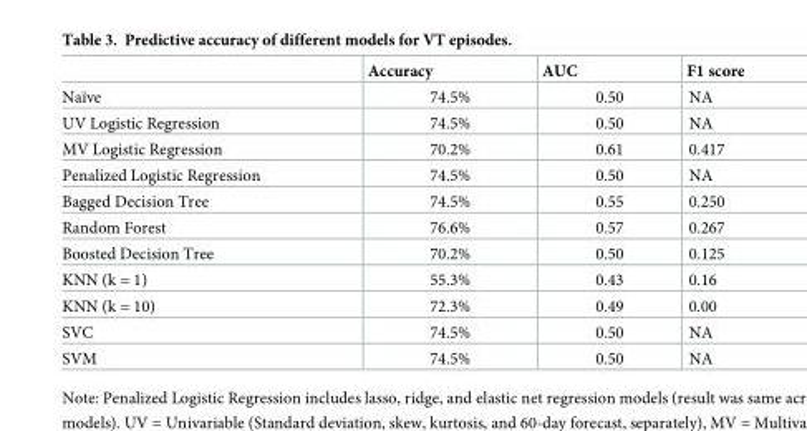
<table><thead><tr><td></td><td>Accuracy</td><td>AUC</td><td>F1 score</td></tr></thead><tbody><tr><td>Naïve</td><td>74.5%</td><td>0.50</td><td>NA</td></tr><tr><td>UV Logistic Regression</td><td>74.5%</td><td>0.50</td><td>NA</td></tr><tr><td>MV Logistic Regression</td><td>70.2%</td><td>0.61</td><td>0.417</td></tr><tr><td>Penalized Logistic Regression</td><td>74.5%</td><td>0.50</td><td>NA</td></tr><tr><td>Bagged Decision Tree</td><td>74.5%</td><td>0.55</td><td>0.250</td></tr><tr><td>Random Forest</td><td>76.6%</td><td>0.57</td><td>0.267</td></tr><tr><td>Boosted Decision Tree</td><td>70.2%</td><td>0.50</td><td>0.125</td></tr><tr><td>KNN (k = 1)</td><td>55.3%</td><td>0.43</td><td>0.16</td></tr><tr><td>KNN (k = 10)</td><td>72.3%</td><td>0.49</td><td>0.00</td></tr><tr><td>SVC</td><td>74.5%</td><td>0.50</td><td>NA</td></tr><tr><td>SVM</td><td>74.5%</td><td>0.50</td><td>NA</td></tr></tbody></table>